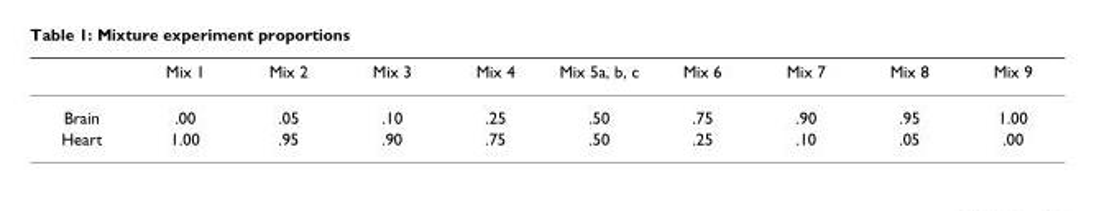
<table><thead><tr><td></td><td>Mix 1</td><td>Mix 2</td><td>Mix 3</td><td>Mix 4</td><td>Mix 5a, b, c</td><td>Mix 6</td><td>Mix 7</td><td>Mix 8</td><td>Mix 9</td></tr></thead><tbody><tr><td>Brain</td><td>.00</td><td>.05</td><td>.10</td><td>.25</td><td>.50</td><td>.75</td><td>.90</td><td>.95</td><td>1.00</td></tr><tr><td>Heart</td><td>1.00</td><td>.95</td><td>.90</td><td>.75</td><td>.50</td><td>.25</td><td>.10</td><td>.05</td><td>.00</td></tr></tbody></table>